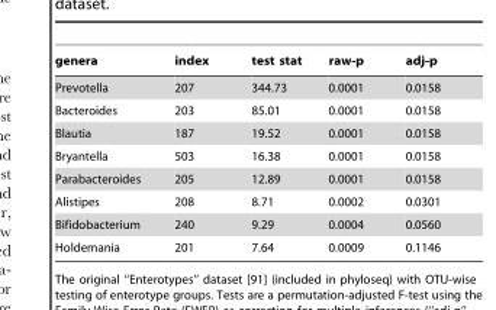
<table><thead><tr><td>genera</td><td>index</td><td>test stat</td><td>raw-p</td><td>adj-p</td></tr></thead><tbody><tr><td>Prevotella</td><td>207</td><td>344.73</td><td>0.0001</td><td>0.0158</td></tr><tr><td>Bacteroides</td><td>203</td><td>85.01</td><td>0.0001</td><td>0.0158</td></tr><tr><td>Blautia</td><td>187</td><td>19.52</td><td>0.0001</td><td>0.0158</td></tr><tr><td>Bryantella</td><td>503</td><td>16.38</td><td>0.0001</td><td>0.0158</td></tr><tr><td>Parabacteroides</td><td>205</td><td>12.89</td><td>0.0001</td><td>0.0158</td></tr><tr><td>Alistipes</td><td>208</td><td>8.71</td><td>0.0002</td><td>0.0301</td></tr><tr><td>Bifidobacterium</td><td>240</td><td>9.29</td><td>0.0004</td><td>0.0560</td></tr><tr><td>Holdemania</td><td>201</td><td>7.64</td><td>0.0009</td><td>0.1146</td></tr></tbody></table>